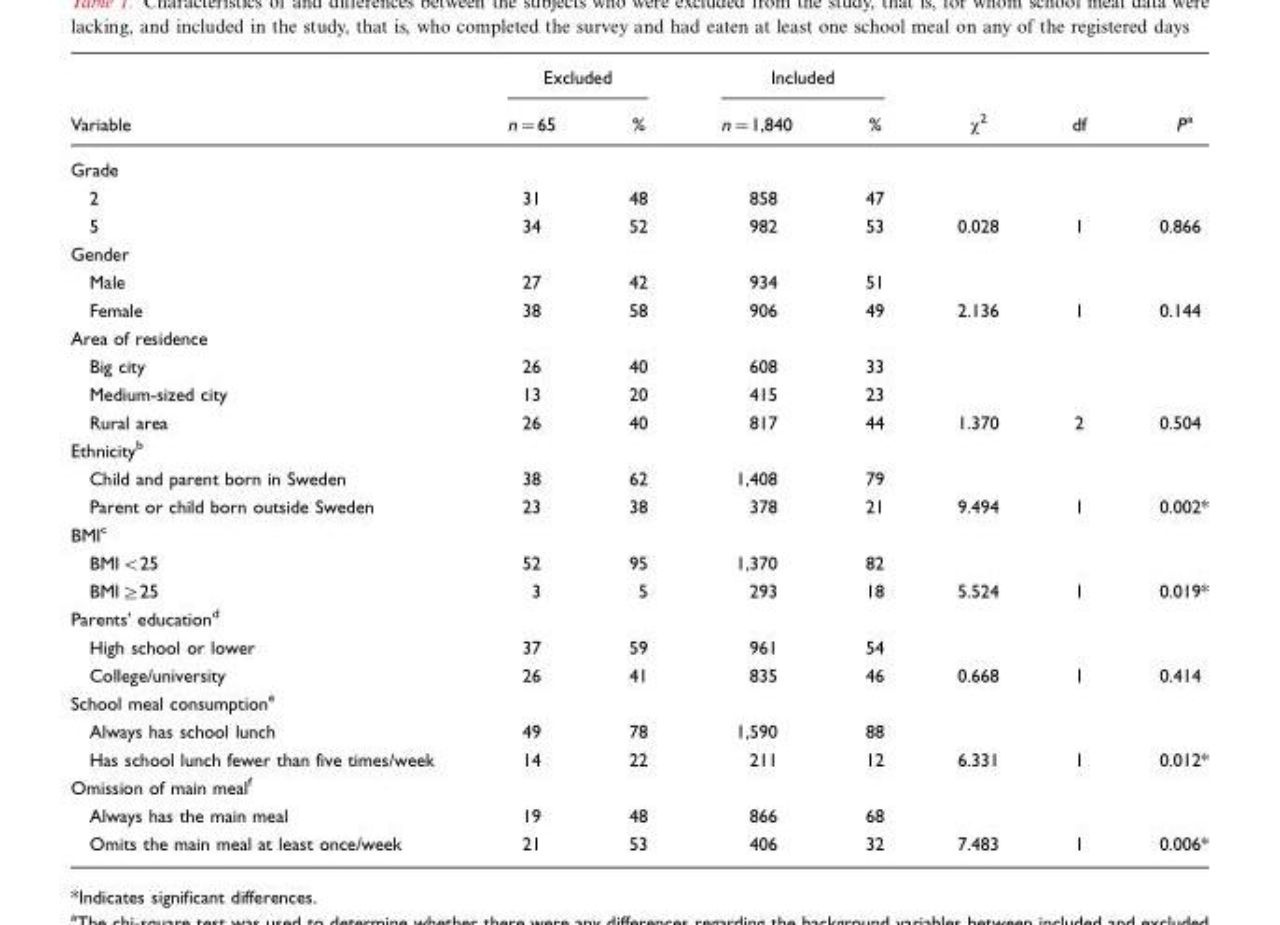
<table><thead><tr><td rowspan="2">Variable</td><td colspan="2">Excluded</td><td colspan="2">Included</td><td rowspan="2">χ<sup>2</sup></td><td rowspan="2">df</td><td rowspan="2">Pa</td></tr><tr><td>n=65</td><td>%</td><td>n=1,840</td><td>%</td></tr></thead><tbody><tr><td colspan="8">Grade</td></tr><tr><td>2</td><td>31</td><td>48</td><td>858</td><td>47</td><td></td><td></td><td></td></tr><tr><td>5</td><td>34</td><td>52</td><td>982</td><td>53</td><td>0.028</td><td>1</td><td>0.866</td></tr><tr><td colspan="8">Gender</td></tr><tr><td>Male</td><td>27</td><td>42</td><td>934</td><td>51</td><td></td><td></td><td></td></tr><tr><td>Female</td><td>38</td><td>58</td><td>906</td><td>49</td><td>2.136</td><td>1</td><td>0.144</td></tr><tr><td colspan="8">Area of residence</td></tr><tr><td>Big city</td><td>26</td><td>40</td><td>608</td><td>33</td><td></td><td></td><td></td></tr><tr><td>Medium-sized city</td><td>13</td><td>20</td><td>415</td><td>23</td><td></td><td></td><td></td></tr><tr><td>Rural area</td><td>26</td><td>40</td><td>817</td><td>44</td><td>1.370</td><td>2</td><td>0.504</td></tr><tr><td colspan="8">Ethnicity<sup>b</sup></td></tr><tr><td>Child and parent born in Sweden</td><td>38</td><td>62</td><td>1,408</td><td>79</td><td></td><td></td><td></td></tr><tr><td>Parent or child born outside Sweden</td><td>23</td><td>38</td><td>378</td><td>21</td><td>9.494</td><td>1</td><td>0.002*</td></tr><tr><td colspan="8">BMI<sup>c</sup></td></tr><tr><td>BMI&lt;25</td><td>52</td><td>95</td><td>1,370</td><td>82</td><td></td><td></td><td></td></tr><tr><td>BMI≥25</td><td>3</td><td>5</td><td>293</td><td>18</td><td>5.524</td><td>1</td><td>0.019*</td></tr><tr><td colspan="8">Parents’ education<sup>d</sup></td></tr><tr><td>High school or lower</td><td>37</td><td>59</td><td>961</td><td>54</td><td></td><td></td><td></td></tr><tr><td>College/university</td><td>26</td><td>41</td><td>835</td><td>46</td><td>0.668</td><td>1</td><td>0.414</td></tr><tr><td colspan="8">School meal consumption<sup>e</sup></td></tr><tr><td>Always has school lunch</td><td>49</td><td>78</td><td>1,590</td><td>88</td><td></td><td></td><td></td></tr><tr><td>Has school lunch fewer than five times/week</td><td>14</td><td>22</td><td>211</td><td>12</td><td>6.331</td><td>1</td><td>0.012*</td></tr><tr><td colspan="8">Omission of main meal<sup>f</sup></td></tr><tr><td>Always has the main meal</td><td>19</td><td>48</td><td>866</td><td>68</td><td></td><td></td><td></td></tr><tr><td>Omits the main meal at least once/week</td><td>21</td><td>53</td><td>406</td><td>32</td><td>7.483</td><td>1</td><td>0.006*</td></tr></tbody></table>